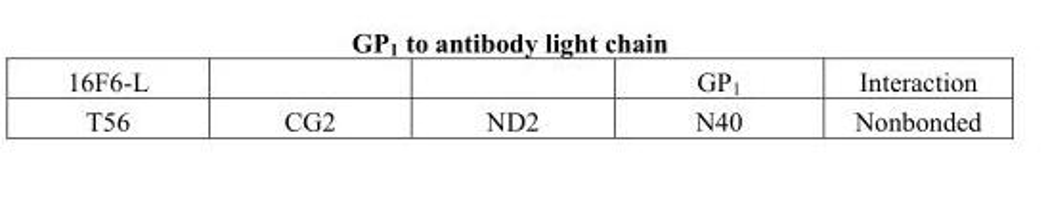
<table><tbody><tr><td>16F6-L</td><td></td><td></td><td>GP<sub>1</sub></td><td>Interaction</td></tr><tr><td>T56</td><td>CG2</td><td>ND2</td><td>N40</td><td>Nonbonded</td></tr></tbody></table>